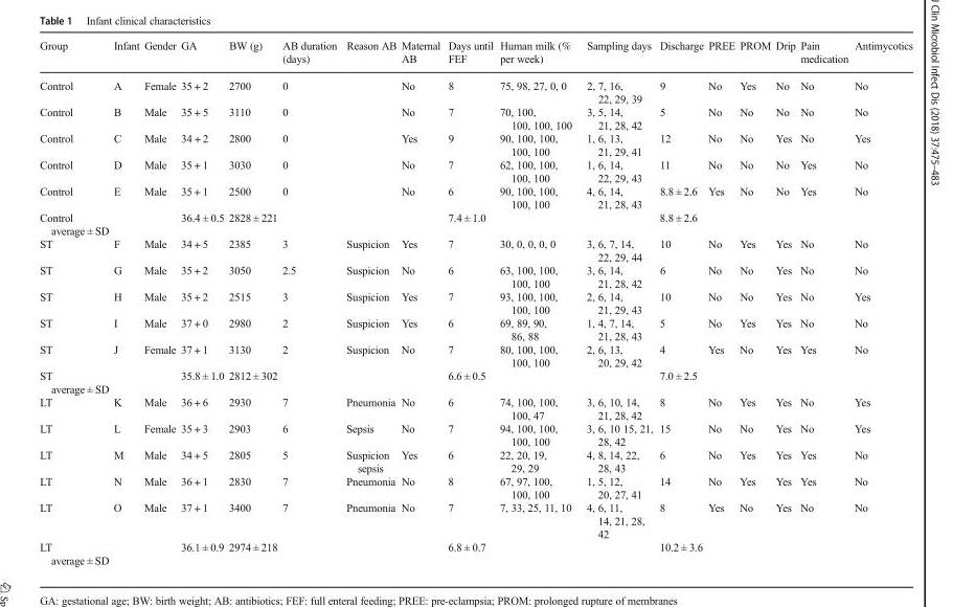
<table><thead><tr><td>Group</td><td>Infant</td><td>Gender</td><td>GA</td><td>BW (g)</td><td>AB duration (days)</td><td>Reason AB</td><td>Maternal AB</td><td>Days until FEF</td><td>Human milk (% per week)</td><td>Sampling days</td><td>Discharge</td><td>PREE</td><td>PROM</td><td>Drip</td><td>Pain medication</td><td>Antimycotics</td></tr></thead><tbody><tr><td>Control</td><td>A</td><td>Female</td><td>35 + 2</td><td>2700</td><td>0</td><td></td><td>No</td><td>8</td><td>75, 98, 27, 0, 0</td><td>2, 7, 16, 22, 29, 39</td><td>9</td><td>No</td><td>Yes</td><td>No</td><td>No</td><td>No</td></tr><tr><td>Control</td><td>B</td><td>Male</td><td>35 + 5</td><td>3110</td><td>0</td><td></td><td>No</td><td>7</td><td>70, 100, 100, 100, 100</td><td>3, 5, 14, 21, 28, 42</td><td>5</td><td>No</td><td>No</td><td>No</td><td>No</td><td>No</td></tr><tr><td>Control</td><td>C</td><td>Male</td><td>34 + 2</td><td>2800</td><td>0</td><td></td><td>Yes</td><td>9</td><td>90, 100, 100, 100, 100</td><td>1, 6, 13, 21, 29, 41</td><td>12</td><td>No</td><td>No</td><td>Yes</td><td>No</td><td>Yes</td></tr><tr><td>Control</td><td>D</td><td>Male</td><td>35 + 1</td><td>3030</td><td>0</td><td></td><td>No</td><td>7</td><td>62, 100, 100, 100, 100</td><td>1, 6, 14, 22, 29, 43</td><td>11</td><td>No</td><td>No</td><td>No</td><td>Yes</td><td>No</td></tr><tr><td>Control</td><td>E</td><td>Male</td><td>35 + 1</td><td>2500</td><td>0</td><td></td><td>No</td><td>6</td><td>90, 100, 100, 100, 100</td><td>4, 6, 14, 21, 28, 43</td><td>8.8 ± 2.6</td><td>Yes</td><td>No</td><td>No</td><td>Yes</td><td>No</td></tr><tr><td>Control average ± SD</td><td></td><td></td><td>36.4 ± 0.5</td><td>2828 ± 221</td><td></td><td></td><td></td><td>7.4 ± 1.0</td><td></td><td></td><td>8.8 ± 2.6</td><td></td><td></td><td></td><td></td><td></td></tr><tr><td>ST</td><td>F</td><td>Male</td><td>34 + 5</td><td>2385</td><td>3</td><td>Suspicion</td><td>Yes</td><td>7</td><td>30, 0, 0, 0, 0</td><td>3, 6, 7, 14, 22, 29, 44</td><td>10</td><td>No</td><td>Yes</td><td>Yes</td><td>No</td><td>No</td></tr><tr><td>ST</td><td>G</td><td>Male</td><td>35 + 2</td><td>3050</td><td>2.5</td><td>Suspicion</td><td>No</td><td>6</td><td>63, 100, 100, 100, 100</td><td>3, 6, 14, 21, 28, 42</td><td>6</td><td>No</td><td>No</td><td>Yes</td><td>No</td><td>No</td></tr><tr><td>ST</td><td>H</td><td>Male</td><td>35 + 2</td><td>2515</td><td>3</td><td>Suspicion</td><td>Yes</td><td>7</td><td>93, 100, 100, 100, 100</td><td>2, 6, 14, 21, 29, 43</td><td>10</td><td>No</td><td>No</td><td>Yes</td><td>No</td><td>Yes</td></tr><tr><td>ST</td><td>I</td><td>Male</td><td>37 + 0</td><td>2980</td><td>2</td><td>Suspicion</td><td>Yes</td><td>6</td><td>69, 89, 90, 86, 88</td><td>1, 4, 7, 14, 21, 28, 43</td><td>5</td><td>No</td><td>Yes</td><td>Yes</td><td>No</td><td>No</td></tr><tr><td>ST</td><td>J</td><td>Female</td><td>37 + 1</td><td>3130</td><td>2</td><td>Suspicion</td><td>No</td><td>7</td><td>80, 100, 100, 100, 100</td><td>2, 6, 13, 20, 29, 42</td><td>4</td><td>Yes</td><td>No</td><td>Yes</td><td>Yes</td><td>No</td></tr><tr><td>ST average ± SD</td><td></td><td></td><td>35.8 ± 1.0</td><td>2812 ± 302</td><td></td><td></td><td></td><td>6.6 ± 0.5</td><td></td><td></td><td>7.0 ± 2.5</td><td></td><td></td><td></td><td></td><td></td></tr><tr><td>LT</td><td>K</td><td>Male</td><td>36 + 6</td><td>2930</td><td>7</td><td>Pneumonia</td><td>No</td><td>6</td><td>74, 100, 100, 100, 47</td><td>3, 6, 10, 14, 21, 28, 42</td><td>8</td><td>No</td><td>Yes</td><td>Yes</td><td>No</td><td>Yes</td></tr><tr><td>LT</td><td>L</td><td>Female</td><td>35 + 3</td><td>2903</td><td>6</td><td>Sepsis</td><td>No</td><td>7</td><td>94, 100, 100, 100, 100</td><td>3, 6, 10 15, 21, 28, 42</td><td>15</td><td>No</td><td>No</td><td>Yes</td><td>No</td><td>Yes</td></tr><tr><td>LT</td><td>M</td><td>Male</td><td>34 + 5</td><td>2805</td><td>5</td><td>Suspicion sepsis</td><td>Yes</td><td>6</td><td>22, 20, 19, 29, 29</td><td>4, 8, 14, 22, 28, 43</td><td>6</td><td>No</td><td>Yes</td><td>Yes</td><td>Yes</td><td>No</td></tr><tr><td>LT</td><td>N</td><td>Male</td><td>36 + 1</td><td>2830</td><td>7</td><td>Pneumonia</td><td>No</td><td>8</td><td>67, 97, 100, 100, 100</td><td>1, 5, 12, 20, 27, 41</td><td>14</td><td>No</td><td>Yes</td><td>Yes</td><td>Yes</td><td>No</td></tr><tr><td>LT</td><td>O</td><td>Male</td><td>37 + 1</td><td>3400</td><td>7</td><td>Pneumonia</td><td>No</td><td>7</td><td>7, 33, 25, 11, 10</td><td>4, 6, 11, 14, 21, 28, 42</td><td>8</td><td>Yes</td><td>No</td><td>Yes</td><td>No</td><td>No</td></tr><tr><td>LT average ± SD</td><td></td><td></td><td>36.1 ± 0.9</td><td>2974 ± 218</td><td></td><td></td><td></td><td>6.8 ± 0.7</td><td></td><td></td><td>10.2 ± 3.6</td><td></td><td></td><td></td><td></td><td></td></tr></tbody></table>